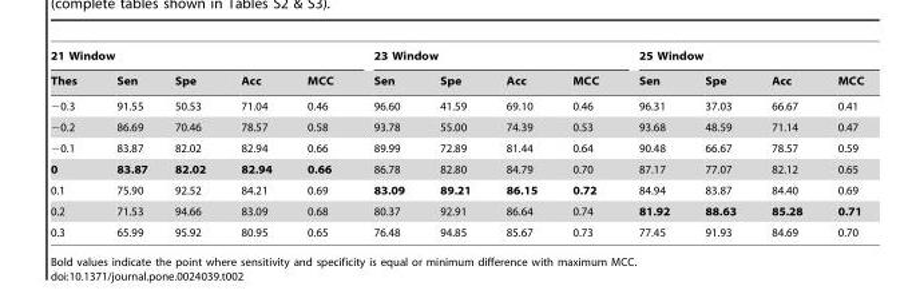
<table><thead><tr><td colspan="5">21 Window</td><td colspan="4">23 Window</td><td colspan="4">25 Window</td></tr><tr><td>Thes</td><td>Sen</td><td>Spe</td><td>Acc</td><td>MCC</td><td>Sen</td><td>Spe</td><td>Acc</td><td>MCC</td><td>Sen</td><td>Spe</td><td>Acc</td><td>MCC</td></tr></thead><tbody><tr><td>−0.3</td><td>91.55</td><td>50.53</td><td>71.04</td><td>0.46</td><td>96.60</td><td>41.59</td><td>69.10</td><td>0.46</td><td>96.31</td><td>37.03</td><td>66.67</td><td>0.41</td></tr><tr><td>−0.2</td><td>86.69</td><td>70.46</td><td>78.57</td><td>0.58</td><td>93.78</td><td>55.00</td><td>74.39</td><td>0.53</td><td>93.68</td><td>48.59</td><td>71.14</td><td>0.47</td></tr><tr><td>−0.1</td><td>83.87</td><td>82.02</td><td>82.94</td><td>0.66</td><td>89.99</td><td>72.89</td><td>81.44</td><td>0.64</td><td>90.48</td><td>66.67</td><td>78.57</td><td>0.59</td></tr><tr><td>0</td><td>83.87</td><td>82.02</td><td>82.94</td><td>0.66</td><td>86.78</td><td>82.80</td><td>84.79</td><td>0.70</td><td>87.17</td><td>77.07</td><td>82.12</td><td>0.65</td></tr><tr><td>0.1</td><td>75.90</td><td>92.52</td><td>84.21</td><td>0.69</td><td>83.09</td><td>89.21</td><td>86.15</td><td>0.72</td><td>84.94</td><td>83.87</td><td>84.40</td><td>0.69</td></tr><tr><td>0.2</td><td>71.53</td><td>94.66</td><td>83.09</td><td>0.68</td><td>80.37</td><td>92.91</td><td>86.64</td><td>0.74</td><td>81.92</td><td>88.63</td><td>85.28</td><td>0.71</td></tr><tr><td>0.3</td><td>65.99</td><td>95.92</td><td>80.95</td><td>0.65</td><td>76.48</td><td>94.85</td><td>85.67</td><td>0.73</td><td>77.45</td><td>91.93</td><td>84.69</td><td>0.70</td></tr></tbody></table>